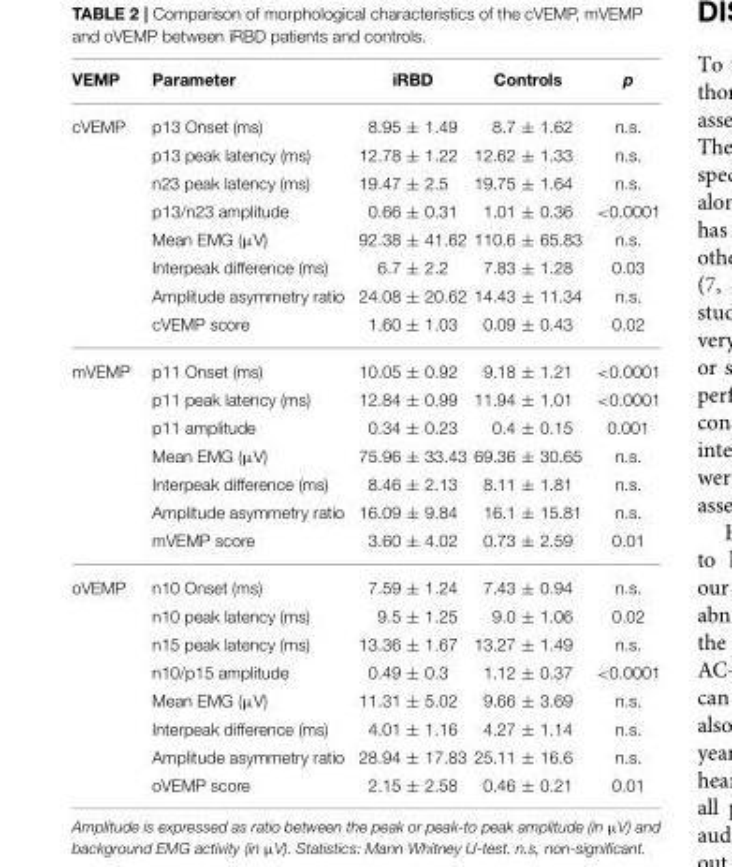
<table><thead><tr><td>VEMP</td><td>Parameter</td><td>iRBD</td><td>Controls</td><td>p</td></tr></thead><tbody><tr><td rowspan="8">cVEMP</td><td>p13 Onset (ms)</td><td>8.95 ± 1.49</td><td>8.7 ± 1.62</td><td>n.s.</td></tr><tr><td>p13 peak latency (ms)</td><td>12.78 ± 1.22</td><td>12.62 ± 1.33</td><td>n.s.</td></tr><tr><td>n23 peak latency (ms)</td><td>19.47 ± 2.5</td><td>19.75 ± 1.64</td><td>n.s.</td></tr><tr><td>p13/n23 amplitude</td><td>0.66 ± 0.31</td><td>1.01 ± 0.36</td><td>&lt;0.0001</td></tr><tr><td>Mean EMG (µV)</td><td>92.38 ± 41.62</td><td>110.6 ± 65.83</td><td>n.s.</td></tr><tr><td>Interpeak difference (ms)</td><td>6.7 ± 2.2</td><td>7.83 ± 1.28</td><td>0.03</td></tr><tr><td>Amplitude asymmetry ratio</td><td>24.08 ± 20.62</td><td>14.43 ± 11.34</td><td>n.s.</td></tr><tr><td>cVEMP score</td><td>1.60 ± 1.03</td><td>0.09 ± 0.43</td><td>0.02</td></tr><tr><td rowspan="7">mVEMP</td><td>p11 Onset (ms)</td><td>10.05 ± 0.92</td><td>9.18 ± 1.21</td><td>&lt;0.0001</td></tr><tr><td>p11 peak latency (ms)</td><td>12.84 ± 0.99</td><td>11.94 ± 1.01</td><td>&lt;0.0001</td></tr><tr><td>p11 amplitude</td><td>0.34 ± 0.23</td><td>0.4 ± 0.15</td><td>0.001</td></tr><tr><td>Mean EMG (µV)</td><td>75.96 ± 33.43</td><td>69.36 ± 30.65</td><td>n.s.</td></tr><tr><td>Interpeak difference (ms)</td><td>8.46 ± 2.13</td><td>8.11 ± 1.81</td><td>n.s.</td></tr><tr><td>Amplitude asymmetry ratio</td><td>16.09 ± 9.84</td><td>16.1 ± 15.81</td><td>n.s.</td></tr><tr><td>mVEMP score</td><td>3.60 ± 4.02</td><td>0.73 ± 2.59</td><td>0.01</td></tr><tr><td rowspan="8">oVEMP</td><td>n10 Onset (ms)</td><td>7.59 ± 1.24</td><td>7.43 ± 0.94</td><td>n.s.</td></tr><tr><td>n10 peak latency (ms)</td><td>9.5 ± 1.25</td><td>9.0 ± 1.06</td><td>0.02</td></tr><tr><td>n15 peak latency (ms)</td><td>13.36 ± 1.67</td><td>13.27 ± 1.49</td><td>n.s.</td></tr><tr><td>n10/p15 amplitude</td><td>0.49 ± 0.3</td><td>1.12 ± 0.37</td><td>&lt;0.0001</td></tr><tr><td>Mean EMG (µV)</td><td>11.31 ± 5.02</td><td>9.66 ± 3.69</td><td>n.s.</td></tr><tr><td>Interpeak difference (ms)</td><td>4.01 ± 1.16</td><td>4.27 ± 1.14</td><td>n.s.</td></tr><tr><td>Amplitude asymmetry ratio</td><td>28.94 ± 17.83</td><td>25.11 ± 16.6</td><td>n.s.</td></tr><tr><td>oVEMP score</td><td>2.15 ± 2.58</td><td>0.46 ± 0.21</td><td>0.01</td></tr></tbody></table>